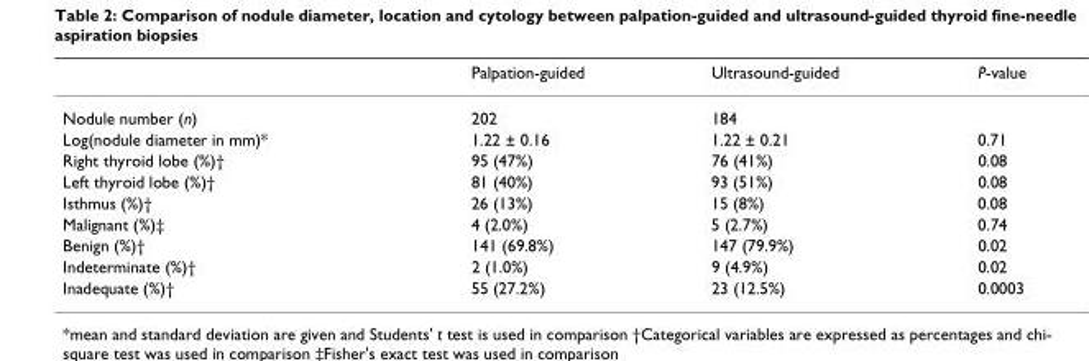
<table><thead><tr><td></td><td>Palpation-guided</td><td>Ultrasound-guided</td><td>P-value</td></tr></thead><tbody><tr><td>Nodule number (n)</td><td>202</td><td>184</td><td></td></tr><tr><td>Log(nodule diameter in mm)*</td><td>1.22 ± 0.16</td><td>1.22 ± 0.21</td><td>0.71</td></tr><tr><td>Right thyroid lobe (%)†</td><td>95 (47%)</td><td>76 (41%)</td><td>0.08</td></tr><tr><td>Left thyroid lobe (%)†</td><td>81 (40%)</td><td>93 (51%)</td><td>0.08</td></tr><tr><td>Isthmus (%)†</td><td>26 (13%)</td><td>15 (8%)</td><td>0.08</td></tr><tr><td>Malignant (%)‡</td><td>4 (2.0%)</td><td>5 (2.7%)</td><td>0.74</td></tr><tr><td>Benign (%)†</td><td>141 (69.8%)</td><td>147 (79.9%)</td><td>0.02</td></tr><tr><td>Indeterminate (%)†</td><td>2 (1.0%)</td><td>9 (4.9%)</td><td>0.02</td></tr><tr><td>Inadequate (%)†</td><td>55 (27.2%)</td><td>23 (12.5%)</td><td>0.0003</td></tr></tbody></table>